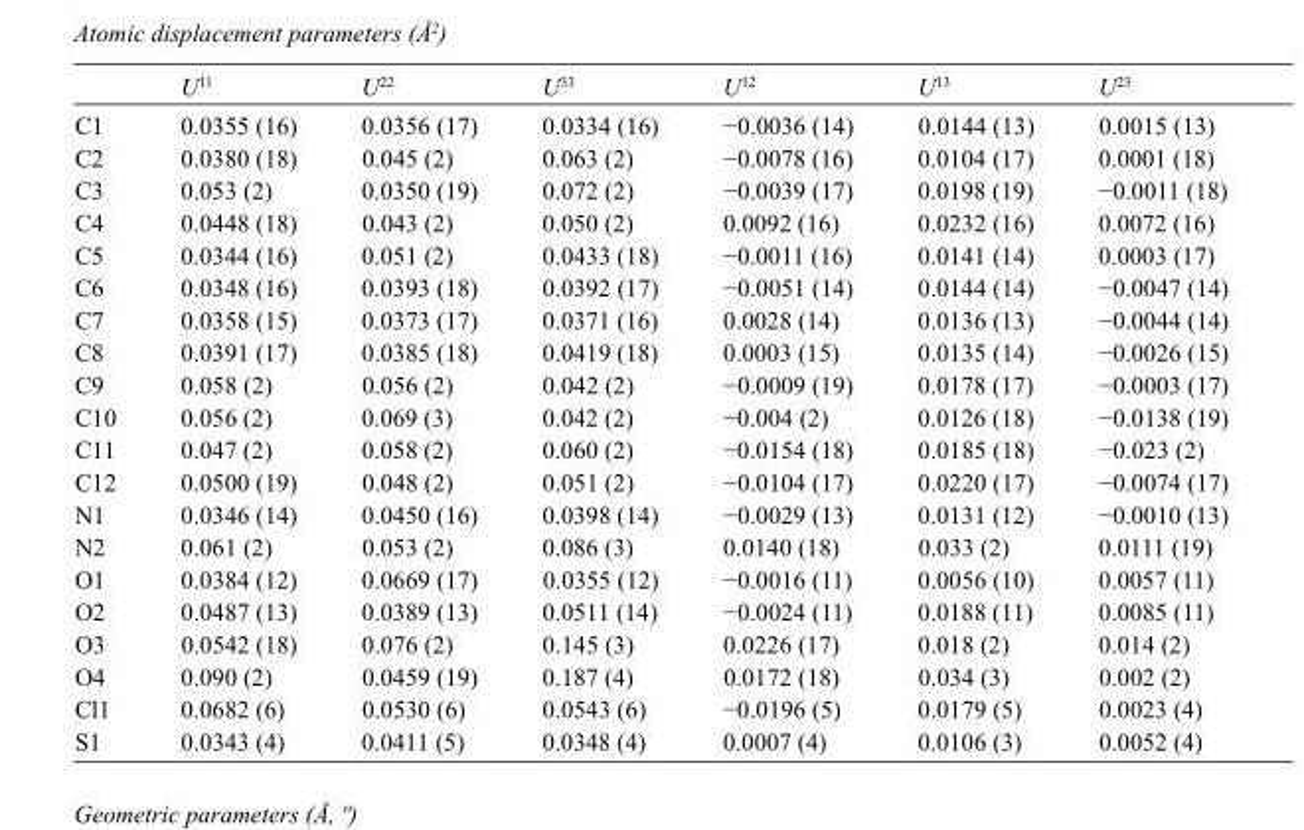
<table><thead><tr><td></td><td>U<sup>11</sup></td><td>U<sup>22</sup></td><td>U<sup>33</sup></td><td>U<sup>12</sup></td><td>U<sup>13</sup></td><td>U<sup>23</sup></td></tr></thead><tbody><tr><td>C1</td><td>0.0355 (16)</td><td>0.0356 (17)</td><td>0.0334 (16)</td><td>−0.0036 (14)</td><td>0.0144 (13)</td><td>0.0015 (13)</td></tr><tr><td>C2</td><td>0.0380 (18)</td><td>0.045 (2)</td><td>0.063 (2)</td><td>−0.0078 (16)</td><td>0.0104 (17)</td><td>0.0001 (18)</td></tr><tr><td>C3</td><td>0.053 (2)</td><td>0.0350 (19)</td><td>0.072 (2)</td><td>−0.0039 (17)</td><td>0.0198 (19)</td><td>−0.0011 (18)</td></tr><tr><td>C4</td><td>0.0448 (18)</td><td>0.043 (2)</td><td>0.050 (2)</td><td>0.0092 (16)</td><td>0.0232 (16)</td><td>0.0072 (16)</td></tr><tr><td>C5</td><td>0.0344 (16)</td><td>0.051 (2)</td><td>0.0433 (18)</td><td>−0.0011 (16)</td><td>0.0141 (14)</td><td>0.0003 (17)</td></tr><tr><td>C6</td><td>0.0348 (16)</td><td>0.0393 (18)</td><td>0.0392 (17)</td><td>−0.0051 (14)</td><td>0.0144 (14)</td><td>−0.0047 (14)</td></tr><tr><td>C7</td><td>0.0358 (15)</td><td>0.0373 (17)</td><td>0.0371 (16)</td><td>0.0028 (14)</td><td>0.0136 (13)</td><td>−0.0044 (14)</td></tr><tr><td>C8</td><td>0.0391 (17)</td><td>0.0385 (18)</td><td>0.0419 (18)</td><td>0.0003 (15)</td><td>0.0135 (14)</td><td>−0.0026 (15)</td></tr><tr><td>C9</td><td>0.058 (2)</td><td>0.056 (2)</td><td>0.042 (2)</td><td>−0.0009 (19)</td><td>0.0178 (17)</td><td>−0.0003 (17)</td></tr><tr><td>C10</td><td>0.056 (2)</td><td>0.069 (3)</td><td>0.042 (2)</td><td>−0.004 (2)</td><td>0.0126 (18)</td><td>−0.0138 (19)</td></tr><tr><td>C11</td><td>0.047 (2)</td><td>0.058 (2)</td><td>0.060 (2)</td><td>−0.0154 (18)</td><td>0.0185 (18)</td><td>−0.023 (2)</td></tr><tr><td>C12</td><td>0.0500 (19)</td><td>0.048 (2)</td><td>0.051 (2)</td><td>−0.0104 (17)</td><td>0.0220 (17)</td><td>−0.0074 (17)</td></tr><tr><td>N1</td><td>0.0346 (14)</td><td>0.0450 (16)</td><td>0.0398 (14)</td><td>−0.0029 (13)</td><td>0.0131 (12)</td><td>−0.0010 (13)</td></tr><tr><td>N2</td><td>0.061 (2)</td><td>0.053 (2)</td><td>0.086 (3)</td><td>0.0140 (18)</td><td>0.033 (2)</td><td>0.0111 (19)</td></tr><tr><td>O1</td><td>0.0384 (12)</td><td>0.0669 (17)</td><td>0.0355 (12)</td><td>−0.0016 (11)</td><td>0.0056 (10)</td><td>0.0057 (11)</td></tr><tr><td>O2</td><td>0.0487 (13)</td><td>0.0389 (13)</td><td>0.0511 (14)</td><td>−0.0024 (11)</td><td>0.0188 (11)</td><td>0.0085 (11)</td></tr><tr><td>O3</td><td>0.0542 (18)</td><td>0.076 (2)</td><td>0.145 (3)</td><td>0.0226 (17)</td><td>0.018 (2)</td><td>0.014 (2)</td></tr><tr><td>O4</td><td>0.090 (2)</td><td>0.0459 (19)</td><td>0.187 (4)</td><td>0.0172 (18)</td><td>0.034 (3)</td><td>0.002 (2)</td></tr><tr><td>Cl1</td><td>0.0682 (6)</td><td>0.0530 (6)</td><td>0.0543 (6)</td><td>−0.0196 (5)</td><td>0.0179 (5)</td><td>0.0023 (4)</td></tr><tr><td>S1</td><td>0.0343 (4)</td><td>0.0411 (5)</td><td>0.0348 (4)</td><td>0.0007 (4)</td><td>0.0106 (3)</td><td>0.0052 (4)</td></tr></tbody></table>